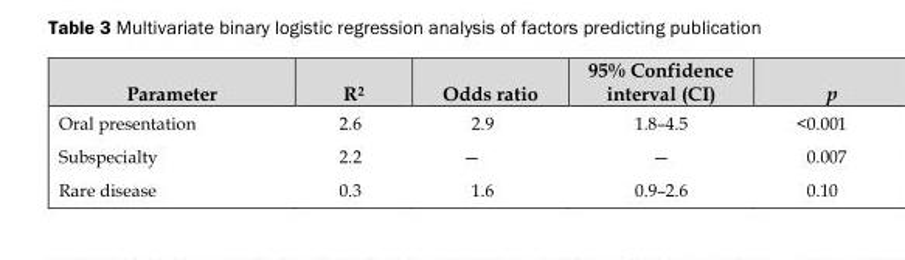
<table><thead><tr><td>Parameter</td><td>R<sup>2</sup></td><td>Odds ratio</td><td>95% Confidence interval (CI)</td><td>p</td></tr></thead><tbody><tr><td>Oral presentation</td><td>2.6</td><td>2.9</td><td>1.8–4.5</td><td>&lt;0.001</td></tr><tr><td>Subspecialty</td><td>2.2</td><td>—</td><td>—</td><td>0.007</td></tr><tr><td>Rare disease</td><td>0.3</td><td>1.6</td><td>0.9–2.6</td><td>0.10</td></tr></tbody></table>